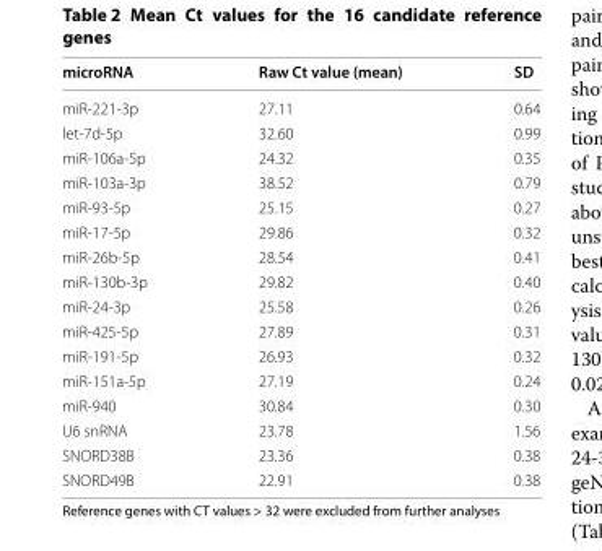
<table><thead><tr><td>microRNA</td><td>Raw Ct value (mean)</td><td>SD</td></tr></thead><tbody><tr><td>miR-221-3p</td><td>27.11</td><td>0.64</td></tr><tr><td>let-7d-5p</td><td>32.60</td><td>0.99</td></tr><tr><td>miR-106a-5p</td><td>24.32</td><td>0.35</td></tr><tr><td>miR-103a-3p</td><td>38.52</td><td>0.79</td></tr><tr><td>miR-93-5p</td><td>25.15</td><td>0.27</td></tr><tr><td>miR-17-5p</td><td>29.86</td><td>0.32</td></tr><tr><td>miR-26b-5p</td><td>28.54</td><td>0.41</td></tr><tr><td>miR-130b-3p</td><td>29.82</td><td>0.40</td></tr><tr><td>miR-24-3p</td><td>25.58</td><td>0.26</td></tr><tr><td>miR-425-5p</td><td>27.89</td><td>0.31</td></tr><tr><td>miR-191-5p</td><td>26.93</td><td>0.32</td></tr><tr><td>miR-151a-5p</td><td>27.19</td><td>0.24</td></tr><tr><td>miR-940</td><td>30.84</td><td>0.30</td></tr><tr><td>U6 snRNA</td><td>23.78</td><td>1.56</td></tr><tr><td>SNORD38B</td><td>23.36</td><td>0.38</td></tr><tr><td>SNORD49B</td><td>22.91</td><td>0.38</td></tr></tbody></table>